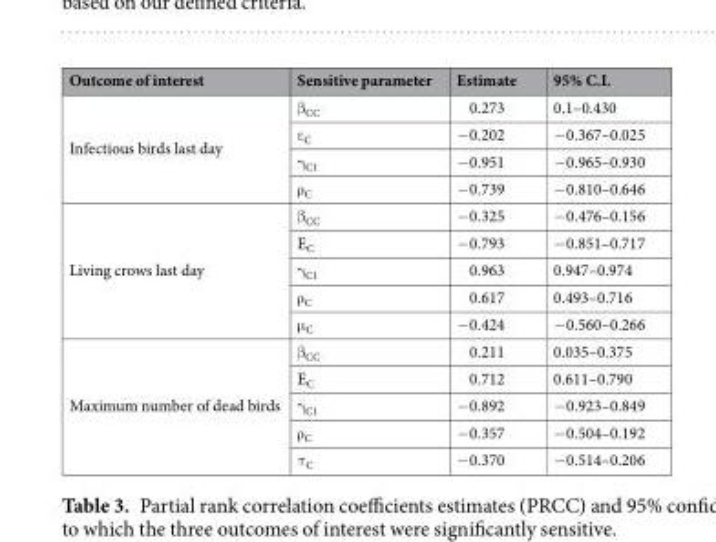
<table><thead><tr><td>Outcome of interest</td><td>Sensitive parameter</td><td>Estimate</td><td>95% C.I.</td></tr></thead><tbody><tr><td rowspan="4">Infectious birds last day</td><td>β<sub>CC</sub></td><td>0.273</td><td>0.1–0.430</td></tr><tr><td>ε<sub>C</sub></td><td>−0.202</td><td>−0.367–0.025</td></tr><tr><td>γ<sub>C1</sub></td><td>−0.951</td><td>−0.965–0.930</td></tr><tr><td>ρ<sub>C</sub></td><td>−0.739</td><td>−0.810–0.646</td></tr><tr><td rowspan="5">Living crows last day</td><td>β<sub>CC</sub></td><td>−0.325</td><td>−0.476–0.156</td></tr><tr><td>E<sub>C</sub></td><td>−0.793</td><td>−0.851–0.717</td></tr><tr><td>γ<sub>C1</sub></td><td>0.963</td><td>0.947–0.974</td></tr><tr><td>ρ<sub>C</sub></td><td>0.617</td><td>0.493–0.716</td></tr><tr><td>μ<sub>C</sub></td><td>−0.424</td><td>−0.560–0.266</td></tr><tr><td rowspan="5">Maximum number of dead birds</td><td>β<sub>CC</sub></td><td>0.211</td><td>0.035–0.375</td></tr><tr><td>E<sub>C</sub></td><td>0.712</td><td>0.611–0.790</td></tr><tr><td>γ<sub>C1</sub></td><td>−0.892</td><td>−0.923–0.849</td></tr><tr><td>ρ<sub>C</sub></td><td>−0.357</td><td>−0.504–0.192</td></tr><tr><td>τ<sub>C</sub></td><td>−0.370</td><td>−0.514–0.206</td></tr></tbody></table>